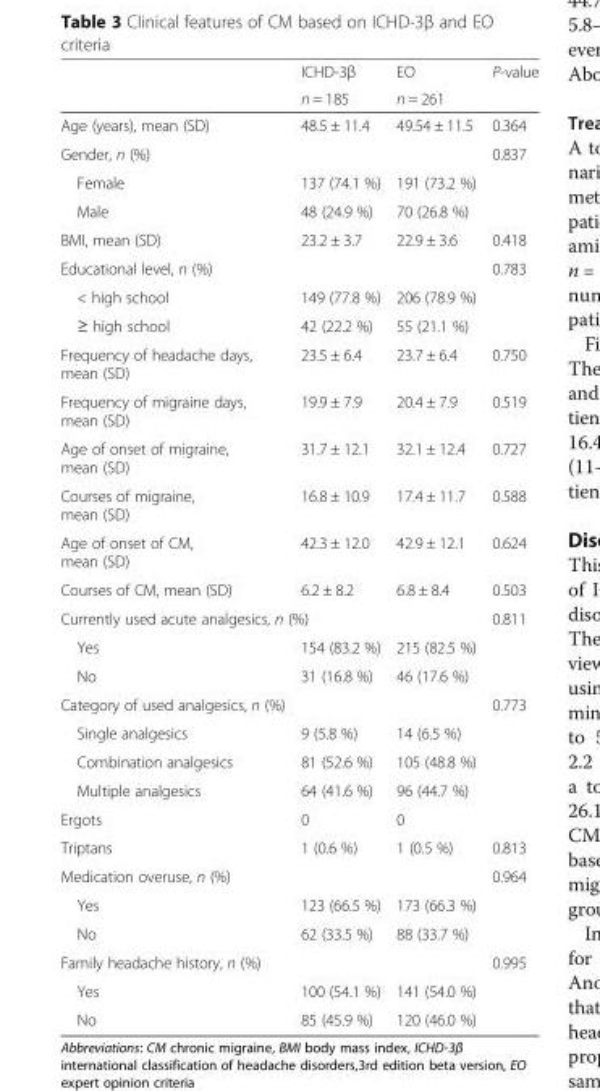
<table><thead><tr><td rowspan="2"></td><td rowspan="2">ICHD-3β n = 185</td><td rowspan="2">EO n = 261</td><td rowspan="2">P-value</td></tr><tr></tr></thead><tbody><tr><td>Age (years), mean (SD)</td><td>48.5 ± 11.4</td><td>49.54 ± 11.5</td><td>0.364</td></tr><tr><td>Gender, n (%)</td><td></td><td></td><td>0.837</td></tr><tr><td>Female</td><td>137 (74.1 %)</td><td>191 (73.2 %)</td><td></td></tr><tr><td>Male</td><td>48 (24.9 %)</td><td>70 (26.8 %)</td><td></td></tr><tr><td>BMI, mean (SD)</td><td>23.2 ± 3.7</td><td>22.9 ± 3.6</td><td>0.418</td></tr><tr><td>Educational level, n (%)</td><td></td><td></td><td>0.783</td></tr><tr><td>&lt; high school</td><td>149 (77.8 %)</td><td>206 (78.9 %)</td><td></td></tr><tr><td>≥ high school</td><td>42 (22.2 %)</td><td>55 (21.1 %)</td><td></td></tr><tr><td>Frequency of headache days, mean (SD)</td><td>23.5 ± 6.4</td><td>23.7 ± 6.4</td><td>0.750</td></tr><tr><td>Frequency of migraine days, mean (SD)</td><td>19.9 ± 7.9</td><td>20.4 ± 7.9</td><td>0.519</td></tr><tr><td>Age of onset of migraine, mean (SD)</td><td>31.7 ± 12.1</td><td>32.1 ± 12.4</td><td>0.727</td></tr><tr><td>Courses of migraine, mean (SD)</td><td>16.8 ± 10.9</td><td>17.4 ± 11.7</td><td>0.588</td></tr><tr><td>Age of onset of CM, mean (SD)</td><td>42.3 ± 12.0</td><td>42.9 ± 12.1</td><td>0.624</td></tr><tr><td>Courses of CM, mean (SD)</td><td>6.2 ± 8.2</td><td>6.8 ± 8.4</td><td>0.503</td></tr><tr><td colspan="2">Currently used acute analgesics, n (%)</td><td></td><td>0.811</td></tr><tr><td>Yes</td><td>154 (83.2 %)</td><td>215 (82.5 %)</td><td></td></tr><tr><td>No</td><td>31 (16.8 %)</td><td>46 (17.6 %)</td><td></td></tr><tr><td>Category of used analgesics, n (%)</td><td></td><td></td><td>0.773</td></tr><tr><td>Single analgesics</td><td>9 (5.8 %)</td><td>14 (6.5 %)</td><td></td></tr><tr><td>Combination analgesics</td><td>81 (52.6 %)</td><td>105 (48.8 %)</td><td></td></tr><tr><td>Multiple analgesics</td><td>64 (41.6 %)</td><td>96 (44.7 %)</td><td></td></tr><tr><td>Ergots</td><td>0</td><td>0</td><td></td></tr><tr><td>Triptans</td><td>1 (0.6 %)</td><td>1 (0.5 %)</td><td>0.813</td></tr><tr><td>Medication overuse, n (%)</td><td></td><td></td><td>0.964</td></tr><tr><td>Yes</td><td>123 (66.5 %)</td><td>173 (66.3 %)</td><td></td></tr><tr><td>No</td><td>62 (33.5 %)</td><td>88 (33.7 %)</td><td></td></tr><tr><td>Family headache history, n (%)</td><td></td><td></td><td>0.995</td></tr><tr><td>Yes</td><td>100 (54.1 %)</td><td>141 (54.0 %)</td><td></td></tr><tr><td>No</td><td>85 (45.9 %)</td><td>120 (46.0 %)</td><td></td></tr></tbody></table>